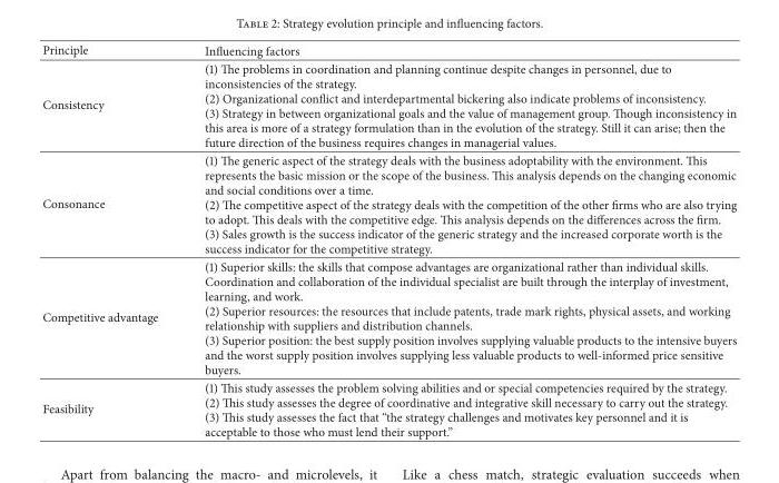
<table><thead><tr><td>Principle</td><td>Influencing factors</td></tr></thead><tbody><tr><td>Consistency</td><td>(1) The problems in coordination and planning continue despite changes in personnel, due to inconsistencies of the strategy. (2) Organizational conflict and interdepartmental bickering also indicate problems of inconsistency. (3) Strategy in between organizational goals and the value of management group. Though inconsistency in this area is more of a strategy formulation than in the evolution of the strategy. Still it can arise; then the future direction of the business requires changes in managerial values.</td></tr><tr><td>Consonance</td><td>(1) The generic aspect of the strategy deals with the business adoptability with the environment. This represents the basic mission or the scope of the business. This analysis depends on the changing economic and social conditions over a time. (2) The competitive aspect of the strategy deals with the competition of the other firms who are also trying to adopt. This deals with the competitive edge. This analysis depends on the differences across the firm. (3) Sales growth is the success indicator of the generic strategy and the increased corporate worth is the success indicator for the competitive strategy.</td></tr><tr><td>Competitive advantage</td><td>(1) Superior skills: the skills that compose advantages are organizational rather than individual skills. Coordination and collaboration of the individual specialist are built through the interplay of investment, learning, and work. (2) Superior resources: the resources that include patents, trade mark rights, physical assets, and working relationship with suppliers and distribution channels. (3) Superior position: the best supply position involves supplying valuable products to the intensive buyers and the worst supply position involves supplying less valuable products to well-informed price sensitive buyers.</td></tr><tr><td>Feasibility</td><td>(1) This study assesses the problem solving abilities and or special competencies required by the strategy. (2) This study assesses the degree of coordinative and integrative skill necessary to carry out the strategy. (3) This study assesses the fact that “the strategy challenges and motivates key personnel and it is acceptable to those who must lend their support.”</td></tr></tbody></table>